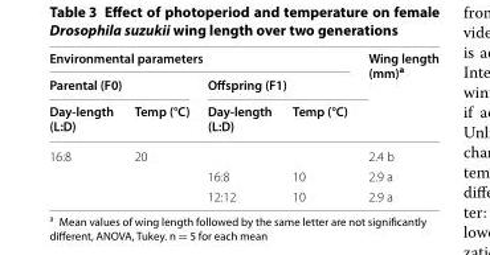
<table><thead><tr><td colspan="4">Environmental parameters</td><td rowspan="3">Wing length (mm)<sup>a</sup></td></tr><tr><td colspan="2">Parental (F0)</td><td colspan="2">Offspring (F1)</td></tr><tr><td>Day-length (L:D)</td><td>Temp (°C)</td><td>Day-length (L:D)</td><td>Temp (°C)</td></tr></thead><tbody><tr><td rowspan="3">16:8</td><td>20</td><td></td><td></td><td>2.4 b</td></tr><tr><td></td><td>16:8</td><td>10</td><td>2.9 a</td></tr><tr><td></td><td>12:12</td><td>10</td><td>2.9 a</td></tr></tbody></table>